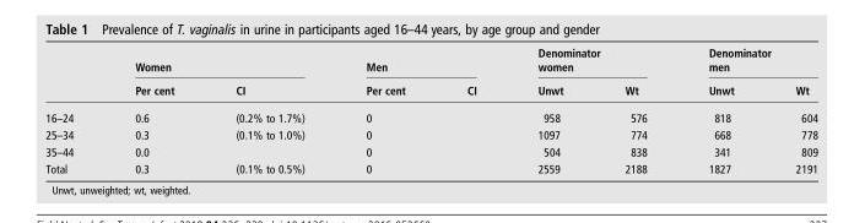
<table><thead><tr><td rowspan="2"></td><td colspan="2">Women</td><td colspan="2">Men</td><td colspan="2">Denominator women</td><td colspan="2">Denominator men</td></tr><tr><td>Per cent</td><td>CI</td><td>Per cent</td><td>CI</td><td>Unwt</td><td>Wt</td><td>Unwt</td><td>Wt</td></tr></thead><tbody><tr><td>16–24</td><td>0.6</td><td>(0.2% to 1.7%)</td><td>0</td><td></td><td>958</td><td>576</td><td>818</td><td>604</td></tr><tr><td>25–34</td><td>0.3</td><td>(0.1% to 1.0%)</td><td>0</td><td></td><td>1097</td><td>774</td><td>668</td><td>778</td></tr><tr><td>35–44</td><td>0.0</td><td></td><td>0</td><td></td><td>504</td><td>838</td><td>341</td><td>809</td></tr><tr><td>Total</td><td>0.3</td><td>(0.1% to 0.5%)</td><td>0</td><td></td><td>2559</td><td>2188</td><td>1827</td><td>2191</td></tr></tbody></table>